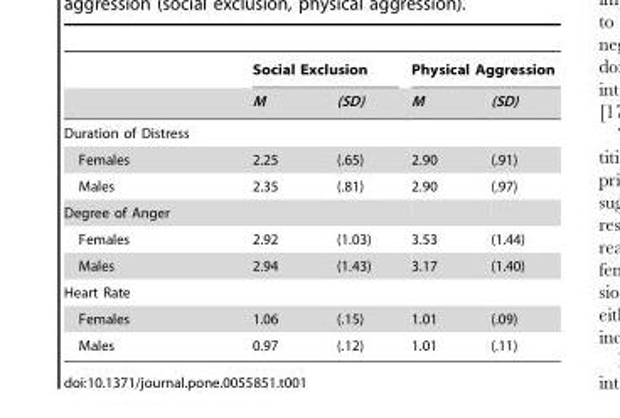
<table><thead><tr><td rowspan="2"></td><td colspan="2">Social Exclusion</td><td colspan="2">Physical Aggression</td></tr><tr><td>M</td><td>(SD)</td><td>M</td><td>(SD)</td></tr></thead><tbody><tr><td colspan="5">Duration of Distress</td></tr><tr><td>Females</td><td>2.25</td><td>(.65)</td><td>2.90</td><td>(.91)</td></tr><tr><td>Males</td><td>2.35</td><td>(.81)</td><td>2.90</td><td>(.97)</td></tr><tr><td colspan="5">Degree of Anger</td></tr><tr><td>Females</td><td>2.92</td><td>(1.03)</td><td>3.53</td><td>(1.44)</td></tr><tr><td>Males</td><td>2.94</td><td>(1.43)</td><td>3.17</td><td>(1.40)</td></tr><tr><td colspan="5">Heart Rate</td></tr><tr><td>Females</td><td>1.06</td><td>(.15)</td><td>1.01</td><td>(.09)</td></tr><tr><td>Males</td><td>0.97</td><td>(.12)</td><td>1.01</td><td>(.11)</td></tr></tbody></table>